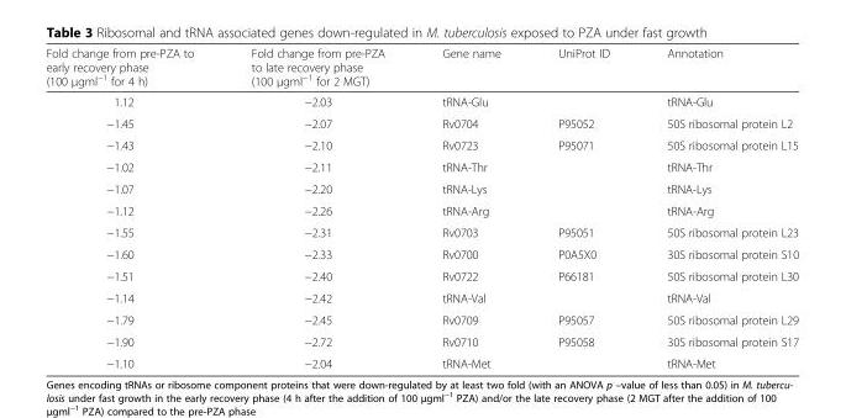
<table><thead><tr><td>Fold change from pre-PZA to early recovery phase (100 μgml<sup>−1</sup> for 4 h)</td><td>Fold change from pre-PZA to late recovery phase (100 μgml<sup>−1</sup> for 2 MGT)</td><td>Gene name</td><td>UniProt ID</td><td>Annotation</td></tr></thead><tbody><tr><td>1.12</td><td>−2.03</td><td>tRNA-Glu</td><td></td><td>tRNA-Glu</td></tr><tr><td>−1.45</td><td>−2.07</td><td>Rv0704</td><td>P95052</td><td>50S ribosomal protein L2</td></tr><tr><td>−1.43</td><td>−2.10</td><td>Rv0723</td><td>P95071</td><td>50S ribosomal protein L15</td></tr><tr><td>−1.02</td><td>−2.11</td><td>tRNA-Thr</td><td></td><td>tRNA-Thr</td></tr><tr><td>−1.07</td><td>−2.20</td><td>tRNA-Lys</td><td></td><td>tRNA-Lys</td></tr><tr><td>−1.12</td><td>−2.26</td><td>tRNA-Arg</td><td></td><td>tRNA-Arg</td></tr><tr><td>−1.55</td><td>−2.31</td><td>Rv0703</td><td>P95051</td><td>50S ribosomal protein L23</td></tr><tr><td>−1.60</td><td>−2.33</td><td>Rv0700</td><td>P0A5X0</td><td>30S ribosomal protein S10</td></tr><tr><td>−1.51</td><td>−2.40</td><td>Rv0722</td><td>P66181</td><td>50S ribosomal protein L30</td></tr><tr><td>−1.14</td><td>−2.42</td><td>tRNA-Val</td><td></td><td>tRNA-Val</td></tr><tr><td>−1.79</td><td>−2.45</td><td>Rv0709</td><td>P95057</td><td>50S ribosomal protein L29</td></tr><tr><td>−1.90</td><td>−2.72</td><td>Rv0710</td><td>P95058</td><td>30S ribosomal protein S17</td></tr><tr><td>−1.10</td><td>−2.04</td><td>tRNA-Met</td><td></td><td>tRNA-Met</td></tr></tbody></table>